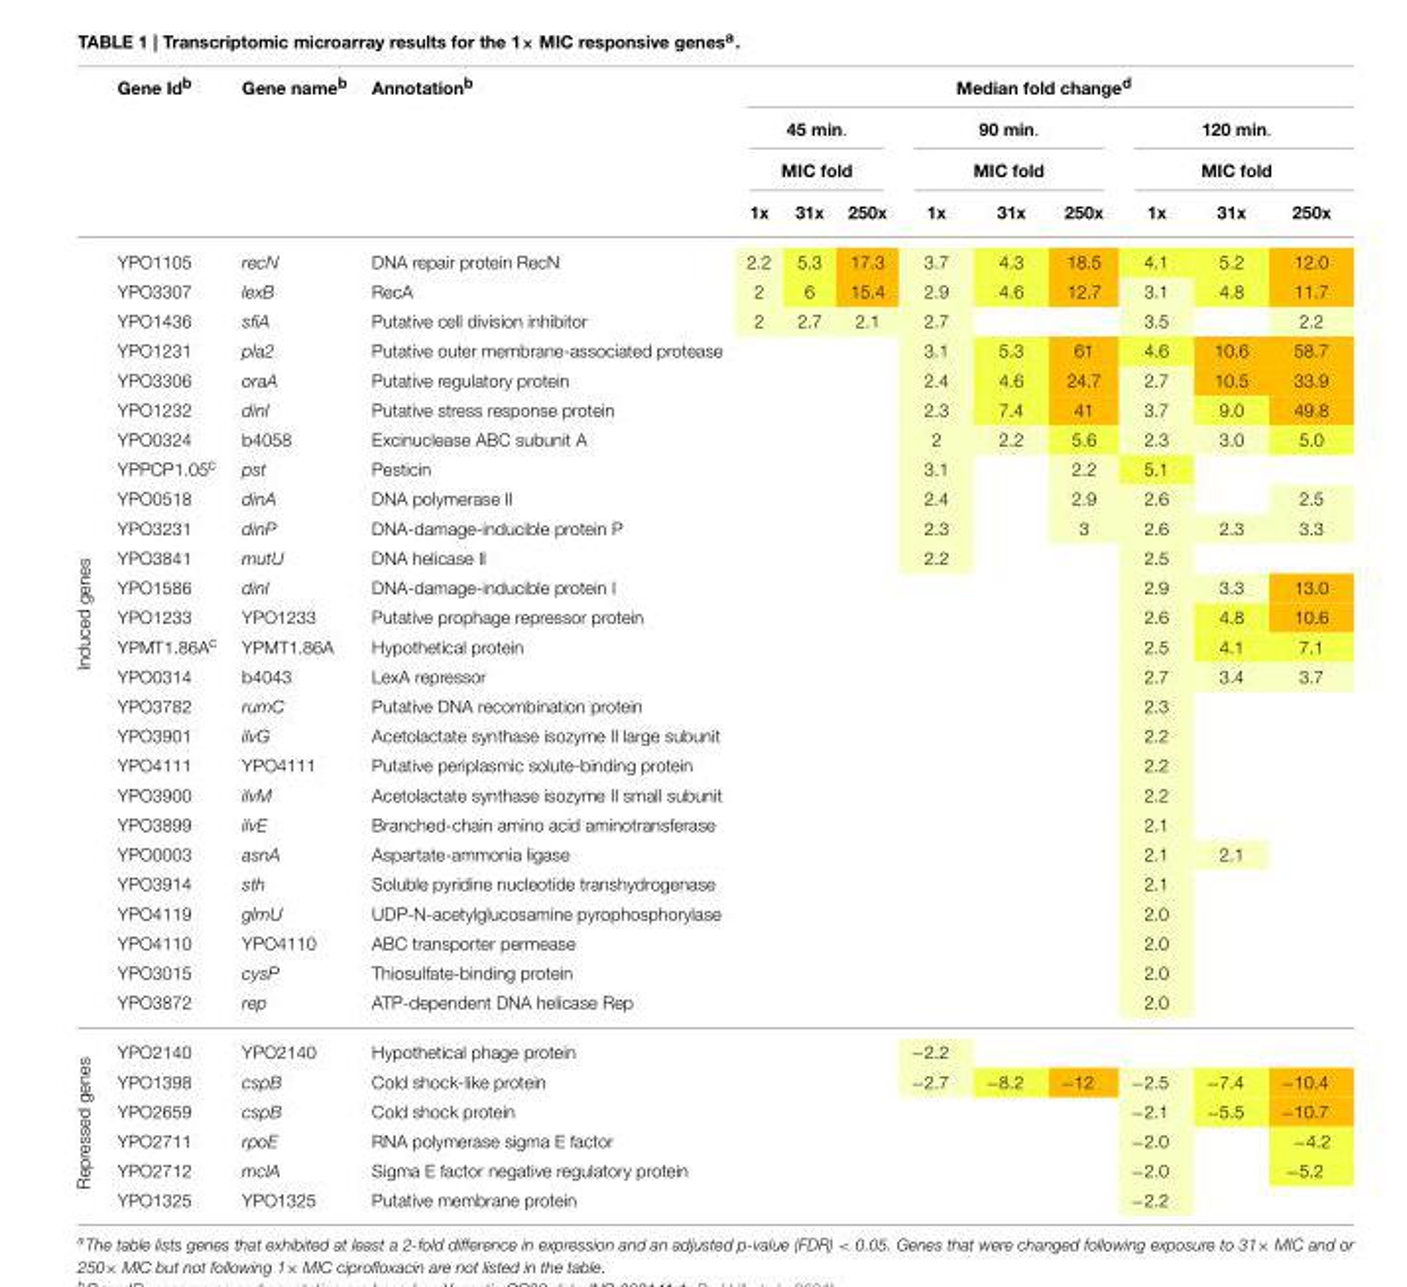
<table><thead><tr><td rowspan="4"></td><td rowspan="4">Gene Id<sup>b</sup></td><td rowspan="4">Gene name<sup>b</sup></td><td rowspan="4">Annotation<sup>b</sup></td><td colspan="9">Median fold change<sup>d</sup></td></tr><tr><td rowspan="2" colspan="3">45 min. MIC fold</td><td rowspan="2" colspan="3">90 min. MIC fold</td><td rowspan="2" colspan="3">120 min. MIC fold</td></tr><tr></tr><tr><td>1x</td><td>31x</td><td>250x</td><td>1x</td><td>31x</td><td>250x</td><td>1x</td><td>31x</td><td>250x</td></tr></thead><tbody><tr><td rowspan="26">Induced genes</td><td>YPO1105</td><td>recN</td><td>DNA repair protein RecN</td><td>2.2</td><td>5.3</td><td>17.3</td><td>3.7</td><td>4.3</td><td>18.5</td><td>4.1</td><td>5.2</td><td>12.0</td></tr><tr><td>YPO3307</td><td>lexB</td><td>RecA</td><td>2</td><td>6</td><td>15.4</td><td>2.9</td><td>4.6</td><td>12.7</td><td>3.1</td><td>4.8</td><td>11.7</td></tr><tr><td>YPO1436</td><td>sfiA</td><td>Putative cell division inhibitor</td><td>2</td><td>2.7</td><td>2.1</td><td>2.7</td><td></td><td></td><td>3.5</td><td></td><td>2.2</td></tr><tr><td>YPO1231</td><td>pla2</td><td>Putative outer membrane-associated protease</td><td></td><td></td><td></td><td>3.1</td><td>5.3</td><td>61</td><td>4.6</td><td>10.6</td><td>58.7</td></tr><tr><td>YPO3306</td><td>oraA</td><td>Putative regulatory protein</td><td></td><td></td><td></td><td>2.4</td><td>4.6</td><td>24.7</td><td>2.7</td><td>10.5</td><td>33.9</td></tr><tr><td>YPO1232</td><td>dinI</td><td>Putative stress response protein</td><td></td><td></td><td></td><td>2.3</td><td>7.4</td><td>41</td><td>3.7</td><td>9.0</td><td>49.8</td></tr><tr><td>YPO0324</td><td>b4058</td><td>Excinuclease ABC subunit A</td><td></td><td></td><td></td><td>2</td><td>2.2</td><td>5.6</td><td>2.3</td><td>3.0</td><td>5.0</td></tr><tr><td>YPPCP1.05<sup>c</sup></td><td>pst</td><td>Pesticin</td><td></td><td></td><td></td><td>3.1</td><td></td><td>2.2</td><td>5.1</td><td></td><td></td></tr><tr><td>YPO0518</td><td>dinA</td><td>DNA polymerase II</td><td></td><td></td><td></td><td>2.4</td><td></td><td>2.9</td><td>2.6</td><td></td><td>2.5</td></tr><tr><td>YPO3231</td><td>dinP</td><td>DNA-damage-inducible protein P</td><td></td><td></td><td></td><td>2.3</td><td></td><td>3</td><td>2.6</td><td>2.3</td><td>3.3</td></tr><tr><td>YPO3841</td><td>mutU</td><td>DNA helicase II</td><td></td><td></td><td></td><td>2.2</td><td></td><td></td><td>2.5</td><td></td><td></td></tr><tr><td>YPO1586</td><td>dinI</td><td>DNA-damage-inducible protein I</td><td></td><td></td><td></td><td></td><td></td><td></td><td>2.9</td><td>3.3</td><td>13.0</td></tr><tr><td>YPO1233</td><td>YPO1233</td><td>Putative prophage repressor protein</td><td></td><td></td><td></td><td></td><td></td><td></td><td>2.6</td><td>4.8</td><td>10.6</td></tr><tr><td>YPMT1.86A<sup>c</sup></td><td>YPMT1.86A</td><td>Hypothetical protein</td><td></td><td></td><td></td><td></td><td></td><td></td><td>2.5</td><td>4.1</td><td>7.1</td></tr><tr><td>YPO0314</td><td>b4043</td><td>LexA repressor</td><td></td><td></td><td></td><td></td><td></td><td></td><td>2.7</td><td>3.4</td><td>3.7</td></tr><tr><td>YPO3782</td><td>rumC</td><td>Putative DNA recombination protein</td><td></td><td></td><td></td><td></td><td></td><td></td><td>2.3</td><td></td><td></td></tr><tr><td>YPO3901</td><td>ilvG</td><td>Acetolactate synthase isozyme II large subunit</td><td></td><td></td><td></td><td></td><td></td><td></td><td>2.2</td><td></td><td></td></tr><tr><td>YPO4111</td><td>YPO4111</td><td>Putative periplasmic solute-binding protein</td><td></td><td></td><td></td><td></td><td></td><td></td><td>2.2</td><td></td><td></td></tr><tr><td>YPO3900</td><td>ilvM</td><td>Acetolactate synthase isozyme II small subunit</td><td></td><td></td><td></td><td></td><td></td><td></td><td>2.2</td><td></td><td></td></tr><tr><td>YPO3899</td><td>ilvE</td><td>Branched-chain amino acid aminotransferase</td><td></td><td></td><td></td><td></td><td></td><td></td><td>2.1</td><td></td><td></td></tr><tr><td>YPO0003</td><td>asnA</td><td>Aspartate-ammonia ligase</td><td></td><td></td><td></td><td></td><td></td><td></td><td>2.1</td><td>2.1</td><td></td></tr><tr><td>YPO3914</td><td>sth</td><td>Soluble pyridine nucleotide transhydrogenase</td><td></td><td></td><td></td><td></td><td></td><td></td><td>2.1</td><td></td><td></td></tr><tr><td>YPO4119</td><td>glmU</td><td>UDP-N-acetylglucosamine pyrophosphorylase</td><td></td><td></td><td></td><td></td><td></td><td></td><td>2.0</td><td></td><td></td></tr><tr><td>YPO4110</td><td>YPO4110</td><td>ABC transporter permease</td><td></td><td></td><td></td><td></td><td></td><td></td><td>2.0</td><td></td><td></td></tr><tr><td>YPO3015</td><td>cysP</td><td>Thiosulfate-binding protein</td><td></td><td></td><td></td><td></td><td></td><td></td><td>2.0</td><td></td><td></td></tr><tr><td>YPO3872</td><td>rep</td><td>ATP-dependent DNA helicase Rep</td><td></td><td></td><td></td><td></td><td></td><td></td><td>2.0</td><td></td><td></td></tr><tr><td rowspan="6">Repressed genes</td><td>YPO2140</td><td>YPO2140</td><td>Hypothetical phage protein</td><td></td><td></td><td></td><td>−2.2</td><td></td><td></td><td></td><td></td><td></td></tr><tr><td>YPO1398</td><td>cspB</td><td>Cold shock-like protein</td><td></td><td></td><td></td><td>−2.7</td><td>−8.2</td><td>−12</td><td>−2.5</td><td>−7.4</td><td>−10.4</td></tr><tr><td>YPO2659</td><td>cspB</td><td>Cold shock protein</td><td></td><td></td><td></td><td></td><td></td><td></td><td>−2.1</td><td>−5.5</td><td>−10.7</td></tr><tr><td>YPO2711</td><td>rpoE</td><td>RNA polymerase sigma E factor</td><td></td><td></td><td></td><td></td><td></td><td></td><td>−2.0</td><td></td><td>−4.2</td></tr><tr><td>YPO2712</td><td>mclA</td><td>Sigma E factor negative regulatory protein</td><td></td><td></td><td></td><td></td><td></td><td></td><td>−2.0</td><td></td><td>−5.2</td></tr><tr><td>YPO1325</td><td>YPO1325</td><td>Putative membrane protein</td><td></td><td></td><td></td><td></td><td></td><td></td><td>−2.2</td><td></td><td></td></tr></tbody></table>